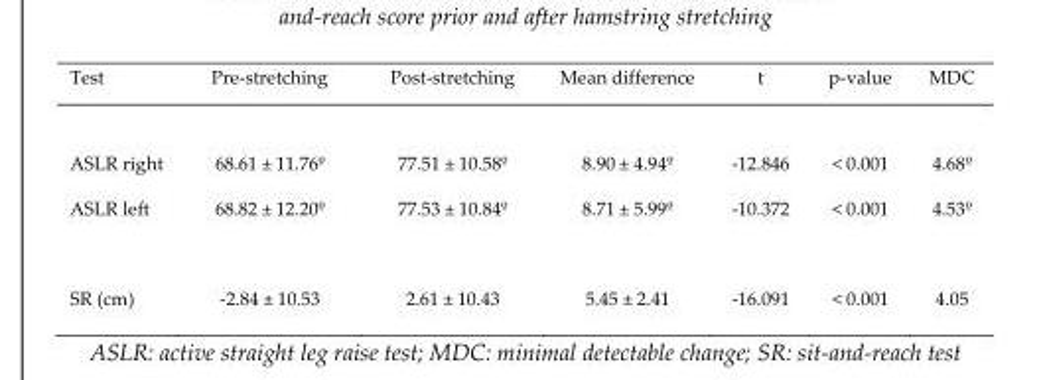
<table><thead><tr><td>Test</td><td>Pre-stretching</td><td>Post-stretching</td><td>Mean difference</td><td>t</td><td>p-value</td><td>MDC</td></tr></thead><tbody><tr><td>ASLR right</td><td>68.61 ± 11.76º</td><td>77.51 ± 10.58º</td><td>8.90 ± 4.94º</td><td>-12.846</td><td>&lt; 0.001</td><td>4.68º</td></tr><tr><td>ASLR left</td><td>68.82 ± 12.20º</td><td>77.53 ± 10.84º</td><td>8.71 ± 5.99º</td><td>-10.372</td><td>&lt; 0.001</td><td>4.53º</td></tr><tr><td>SR (cm)</td><td>-2.84 ± 10.53</td><td>2.61 ± 10.43</td><td>5.45 ± 2.41</td><td>-16.091</td><td>&lt; 0.001</td><td>4.05</td></tr></tbody></table>